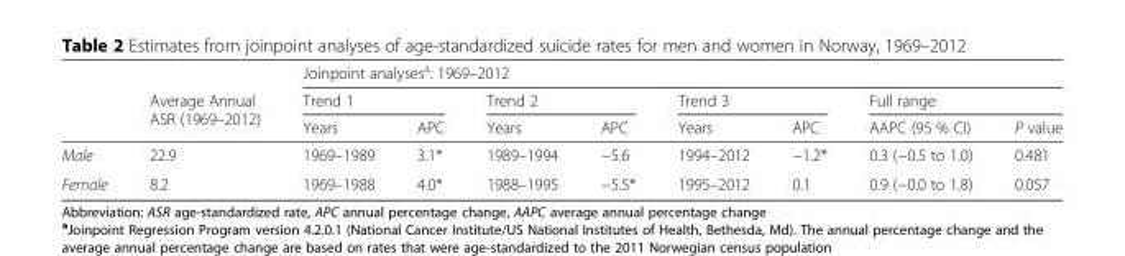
<table><thead><tr><td rowspan="3"></td><td rowspan="3">Average Annual ASR (1969–2012)</td><td colspan="8">Joinpoint analyses<sup>a</sup>: 1969–2012</td></tr><tr><td colspan="2">Trend 1</td><td colspan="2">Trend 2</td><td colspan="2">Trend 3</td><td colspan="2">Full range</td></tr><tr><td>Years</td><td>APC</td><td>Years</td><td>APC</td><td>Years</td><td>APC</td><td>AAPC (95 % CI)</td><td>P value</td></tr></thead><tbody><tr><td>Male</td><td>22.9</td><td>1969–1989</td><td>3.1*</td><td>1989–1994</td><td>−5.6</td><td>1994–2012</td><td>−1.2*</td><td>0.3 (−0.5 to 1.0)</td><td>0.481</td></tr><tr><td>Female</td><td>8.2</td><td>1969–1988</td><td>4.0*</td><td>1988–1995</td><td>−5.5*</td><td>1995–2012</td><td>0.1</td><td>0.9 (−0.0 to 1.8)</td><td>0.057</td></tr></tbody></table>